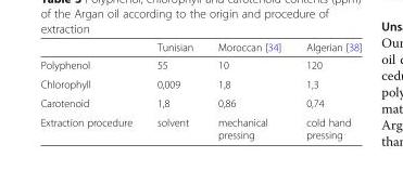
<table><thead><tr><td></td><td>Tunisian</td><td>Moroccan [34]</td><td>Algerian [38]</td></tr></thead><tbody><tr><td>Polyphenol</td><td>55</td><td>10</td><td>120</td></tr><tr><td>Chlorophyll</td><td>0,009</td><td>1,8</td><td>1,3</td></tr><tr><td>Carotenoid</td><td>1,8</td><td>0,86</td><td>0,74</td></tr><tr><td>Extraction procedure</td><td>solvent</td><td>mechanical pressing</td><td>cold hand pressing</td></tr></tbody></table>